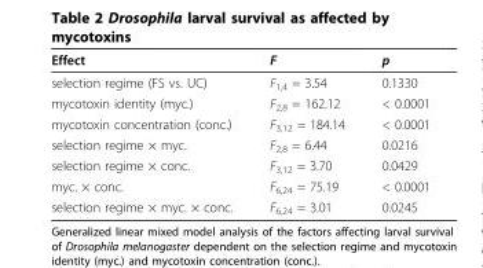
<table><thead><tr><td>Effect</td><td>F</td><td>p</td></tr></thead><tbody><tr><td>selection regime (FS vs. UC)</td><td>F<sub>1,4</sub> = 3.54</td><td>0.1330</td></tr><tr><td>mycotoxin identity (myc.)</td><td>F<sub>2,8</sub> = 162.12</td><td>&lt; 0.0001</td></tr><tr><td>mycotoxin concentration (conc.)</td><td>F<sub>3,12</sub> = 184.14</td><td>&lt; 0.0001</td></tr><tr><td>selection regime × myc.</td><td>F<sub>2,8</sub> = 6.44</td><td>0.0216</td></tr><tr><td>selection regime × conc.</td><td>F<sub>3,12</sub> = 3.70</td><td>0.0429</td></tr><tr><td>myc. × conc.</td><td>F<sub>6,24</sub> = 75.19</td><td>&lt; 0.0001</td></tr><tr><td>selection regime × myc. × conc.</td><td>F<sub>6,24</sub> = 3.01</td><td>0.0245</td></tr></tbody></table>